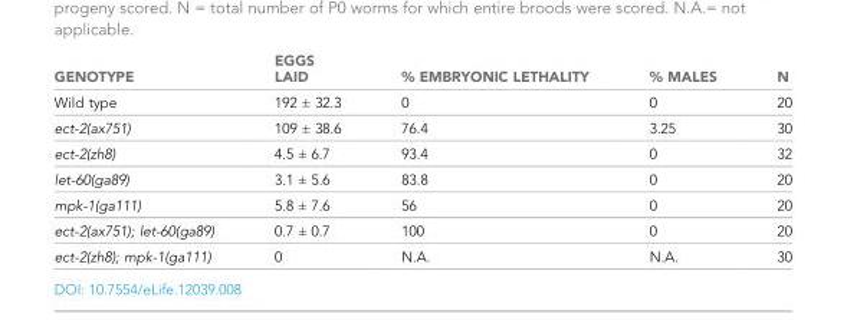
<table><thead><tr><td>GENOTYPE</td><td>EGGS LAID</td><td>% EMBRYONIC LETHALITY</td><td>% MALES</td><td>N</td></tr></thead><tbody><tr><td>Wild type</td><td>192 ± 32.3</td><td>0</td><td>0</td><td>20</td></tr><tr><td>ect-2(ax751)</td><td>109 ± 38.6</td><td>76.4</td><td>3.25</td><td>30</td></tr><tr><td>ect-2(zh8)</td><td>4.5 ± 6.7</td><td>93.4</td><td>0</td><td>32</td></tr><tr><td>let-60(ga89)</td><td>3.1 ± 5.6</td><td>83.8</td><td>0</td><td>20</td></tr><tr><td>mpk-1(ga111)</td><td>5.8 ± 7.6</td><td>56</td><td>0</td><td>20</td></tr><tr><td>ect-2(ax751); let-60(ga89)</td><td>0.7 ± 0.7</td><td>100</td><td>0</td><td>20</td></tr><tr><td>ect-2(zh8); mpk-1(ga111)</td><td>0</td><td>N.A.</td><td>N.A.</td><td>30</td></tr></tbody></table>